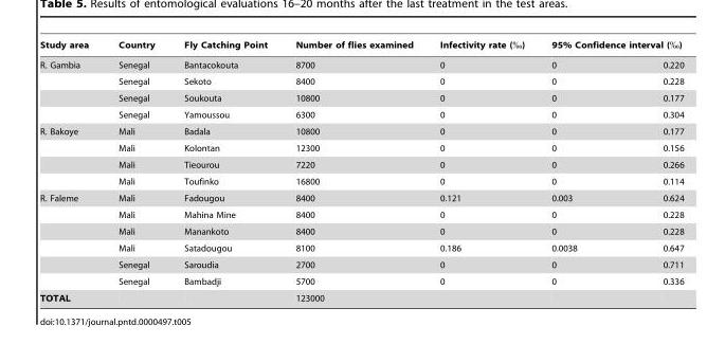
<table><thead><tr><td rowspan="2">Study area R. Gambia</td><td rowspan="2">Country Senegal</td><td rowspan="2">Fly Catching Point Bantacokouta</td><td rowspan="2">Number of flies examined 8700</td><td rowspan="2">Infectivity rate (‰) 0</td><td colspan="2">95% Confidence interval (‰)</td></tr><tr><td>0</td><td>0.220</td></tr></thead><tbody><tr><td></td><td>Senegal</td><td>Sekoto</td><td>8400</td><td>0</td><td>0</td><td>0.228</td></tr><tr><td></td><td>Senegal</td><td>Soukouta</td><td>10800</td><td>0</td><td>0</td><td>0.177</td></tr><tr><td></td><td>Senegal</td><td>Yamoussou</td><td>6300</td><td>0</td><td>0</td><td>0.304</td></tr><tr><td rowspan="4">R. Bakoye</td><td>Mali</td><td>Badala</td><td>10800</td><td>0</td><td>0</td><td>0.177</td></tr><tr><td>Mali</td><td>Kolontan</td><td>12300</td><td>0</td><td>0</td><td>0.156</td></tr><tr><td>Mali</td><td>Tieourou</td><td>7220</td><td>0</td><td>0</td><td>0.266</td></tr><tr><td>Mali</td><td>Toufinko</td><td>16800</td><td>0</td><td>0</td><td>0.114</td></tr><tr><td rowspan="6">R. Faleme</td><td>Mali</td><td>Fadougou</td><td>8400</td><td>0.121</td><td>0.003</td><td>0.624</td></tr><tr><td>Mali</td><td>Mahina Mine</td><td>8400</td><td>0</td><td>0</td><td>0.228</td></tr><tr><td>Mali</td><td>Manankoto</td><td>8400</td><td>0</td><td>0</td><td>0.228</td></tr><tr><td>Mali</td><td>Satadougou</td><td>8100</td><td>0.186</td><td>0.0038</td><td>0.647</td></tr><tr><td>Senegal</td><td>Saroudia</td><td>2700</td><td>0</td><td>0</td><td>0.711</td></tr><tr><td>Senegal</td><td>Bambadji</td><td>5700</td><td>0</td><td>0</td><td>0.336</td></tr><tr><td>TOTAL</td><td></td><td></td><td>123000</td><td></td><td></td><td></td></tr></tbody></table>